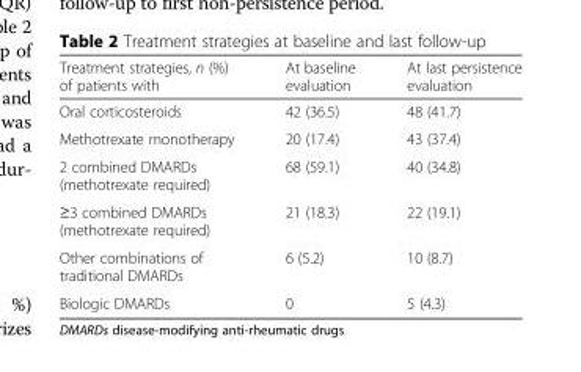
<table><thead><tr><td>Treatment strategies, n (%) of patients with</td><td>At baseline evaluation</td><td>At last persistence evaluation</td></tr></thead><tbody><tr><td>Oral corticosteroids</td><td>42 (36.5)</td><td>48 (41.7)</td></tr><tr><td>Methotrexate monotherapy</td><td>20 (17.4)</td><td>43 (37.4)</td></tr><tr><td>2 combined DMARDs (methotrexate required)</td><td>68 (59.1)</td><td>40 (34.8)</td></tr><tr><td>≥3 combined DMARDs (methotrexate required)</td><td>21 (18.3)</td><td>22 (19.1)</td></tr><tr><td>Other combinations of traditional DMARDs</td><td>6 (5.2)</td><td>10 (8.7)</td></tr><tr><td>Biologic DMARDs</td><td>0</td><td>5 (4.3)</td></tr></tbody></table>